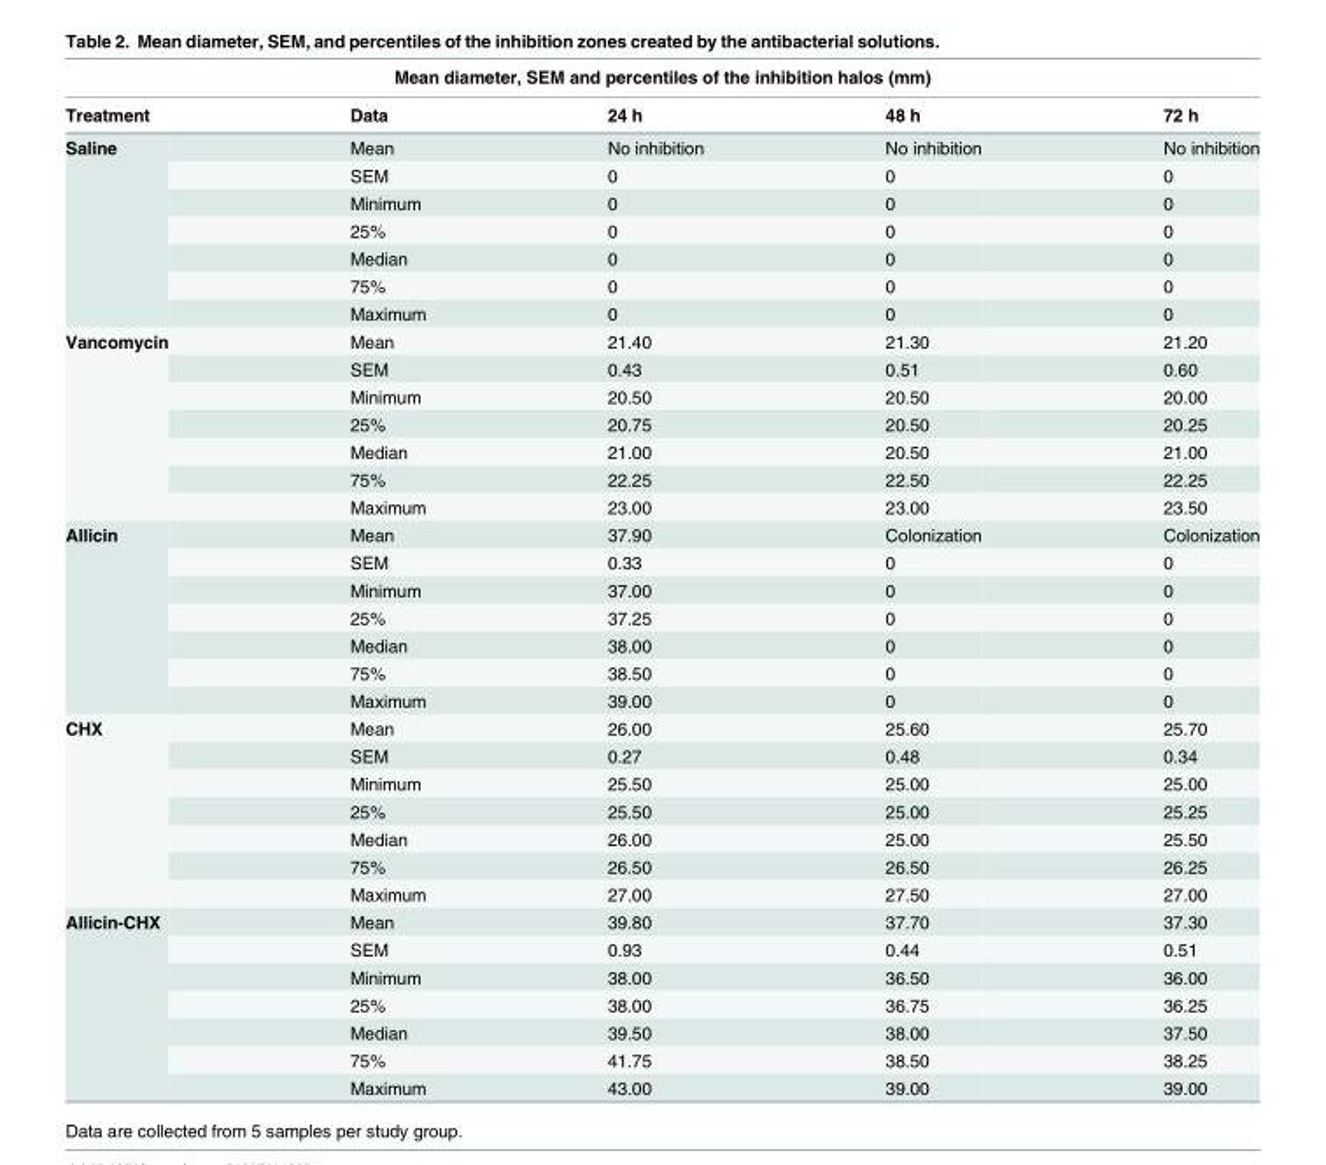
<table><thead><tr><td colspan="5">Mean diameter, SEM and percentiles of the inhibition halos (mm)</td></tr><tr><td>Treatment</td><td>Data</td><td>24 h</td><td>48 h</td><td>72 h</td></tr></thead><tbody><tr><td rowspan="7">Saline</td><td>Mean</td><td>No inhibition</td><td>No inhibition</td><td>No inhibition</td></tr><tr><td>SEM</td><td>0</td><td>0</td><td>0</td></tr><tr><td>Minimum</td><td>0</td><td>0</td><td>0</td></tr><tr><td>25%</td><td>0</td><td>0</td><td>0</td></tr><tr><td>Median</td><td>0</td><td>0</td><td>0</td></tr><tr><td>75%</td><td>0</td><td>0</td><td>0</td></tr><tr><td>Maximum</td><td>0</td><td>0</td><td>0</td></tr><tr><td rowspan="7">Vancomycin</td><td>Mean</td><td>21.40</td><td>21.30</td><td>21.20</td></tr><tr><td>SEM</td><td>0.43</td><td>0.51</td><td>0.60</td></tr><tr><td>Minimum</td><td>20.50</td><td>20.50</td><td>20.00</td></tr><tr><td>25%</td><td>20.75</td><td>20.50</td><td>20.25</td></tr><tr><td>Median</td><td>21.00</td><td>20.50</td><td>21.00</td></tr><tr><td>75%</td><td>22.25</td><td>22.50</td><td>22.25</td></tr><tr><td>Maximum</td><td>23.00</td><td>23.00</td><td>23.50</td></tr><tr><td rowspan="7">Allicin</td><td>Mean</td><td>37.90</td><td>Colonization</td><td>Colonization</td></tr><tr><td>SEM</td><td>0.33</td><td>0</td><td>0</td></tr><tr><td>Minimum</td><td>37.00</td><td>0</td><td>0</td></tr><tr><td>25%</td><td>37.25</td><td>0</td><td>0</td></tr><tr><td>Median</td><td>38.00</td><td>0</td><td>0</td></tr><tr><td>75%</td><td>38.50</td><td>0</td><td>0</td></tr><tr><td>Maximum</td><td>39.00</td><td>0</td><td>0</td></tr><tr><td rowspan="7">CHX</td><td>Mean</td><td>26.00</td><td>25.60</td><td>25.70</td></tr><tr><td>SEM</td><td>0.27</td><td>0.48</td><td>0.34</td></tr><tr><td>Minimum</td><td>25.50</td><td>25.00</td><td>25.00</td></tr><tr><td>25%</td><td>25.50</td><td>25.00</td><td>25.25</td></tr><tr><td>Median</td><td>26.00</td><td>25.00</td><td>25.50</td></tr><tr><td>75%</td><td>26.50</td><td>26.50</td><td>26.25</td></tr><tr><td>Maximum</td><td>27.00</td><td>27.50</td><td>27.00</td></tr><tr><td rowspan="7">Allicin-CHX</td><td>Mean</td><td>39.80</td><td>37.70</td><td>37.30</td></tr><tr><td>SEM</td><td>0.93</td><td>0.44</td><td>0.51</td></tr><tr><td>Minimum</td><td>38.00</td><td>36.50</td><td>36.00</td></tr><tr><td>25%</td><td>38.00</td><td>36.75</td><td>36.25</td></tr><tr><td>Median</td><td>39.50</td><td>38.00</td><td>37.50</td></tr><tr><td>75%</td><td>41.75</td><td>38.50</td><td>38.25</td></tr><tr><td>Maximum</td><td>43.00</td><td>39.00</td><td>39.00</td></tr></tbody></table>